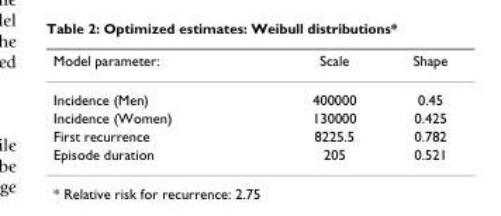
<table><thead><tr><td>Model parameter:</td><td>Scale</td><td>Shape</td></tr></thead><tbody><tr><td>Incidence (Men)</td><td>400000</td><td>0.45</td></tr><tr><td>Incidence (Women)</td><td>130000</td><td>0.425</td></tr><tr><td>First recurrence</td><td>8225.5</td><td>0.782</td></tr><tr><td>Episode duration</td><td>205</td><td>0.521</td></tr></tbody></table>